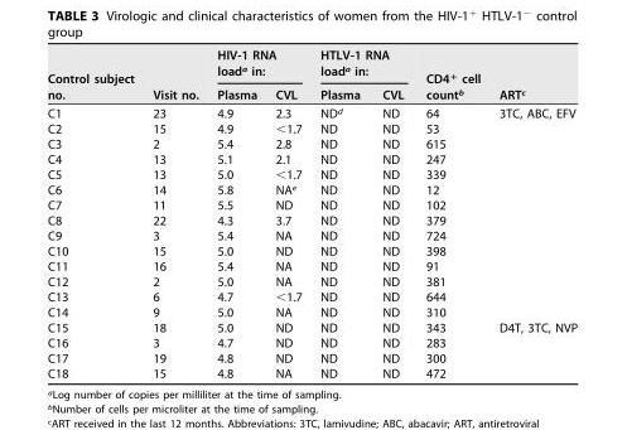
<table><thead><tr><td rowspan="2">Control subject no.</td><td rowspan="2">Visit no.</td><td colspan="2">HIV-1 RNA load<sup>a</sup> in:</td><td colspan="2">HTLV-1 RNA load<sup>a</sup> in:</td><td rowspan="2">CD4<sup>+</sup> cell count<sup>b</sup></td><td rowspan="2">ART<sup>c</sup></td></tr><tr><td>Plasma</td><td>CVL</td><td>Plasma</td><td>CVL</td></tr></thead><tbody><tr><td>C1</td><td>23</td><td>4.9</td><td>2.3</td><td>ND<sup>d</sup></td><td>ND</td><td>64</td><td>3TC, ABC, EFV</td></tr><tr><td>C2</td><td>15</td><td>4.9</td><td>&lt;1.7</td><td>ND</td><td>ND</td><td>53</td><td></td></tr><tr><td>C3</td><td>2</td><td>5.4</td><td>2.8</td><td>ND</td><td>ND</td><td>615</td><td></td></tr><tr><td>C4</td><td>13</td><td>5.1</td><td>2.1</td><td>ND</td><td>ND</td><td>247</td><td></td></tr><tr><td>C5</td><td>13</td><td>5.0</td><td>&lt;1.7</td><td>ND</td><td>ND</td><td>339</td><td></td></tr><tr><td>C6</td><td>14</td><td>5.8</td><td>NA<sup>e</sup></td><td>ND</td><td>ND</td><td>12</td><td></td></tr><tr><td>C7</td><td>11</td><td>5.5</td><td>ND</td><td>ND</td><td>ND</td><td>102</td><td></td></tr><tr><td>C8</td><td>22</td><td>4.3</td><td>3.7</td><td>ND</td><td>ND</td><td>379</td><td></td></tr><tr><td>C9</td><td>3</td><td>5.4</td><td>NA</td><td>ND</td><td>ND</td><td>724</td><td></td></tr><tr><td>C10</td><td>15</td><td>5.0</td><td>ND</td><td>ND</td><td>ND</td><td>398</td><td></td></tr><tr><td>C11</td><td>16</td><td>5.4</td><td>NA</td><td>ND</td><td>ND</td><td>91</td><td></td></tr><tr><td>C12</td><td>2</td><td>5.0</td><td>NA</td><td>ND</td><td>ND</td><td>381</td><td></td></tr><tr><td>C13</td><td>6</td><td>4.7</td><td>&lt;1.7</td><td>ND</td><td>ND</td><td>644</td><td></td></tr><tr><td>C14</td><td>9</td><td>5.0</td><td>NA</td><td>ND</td><td>ND</td><td>310</td><td></td></tr><tr><td>C15</td><td>18</td><td>5.0</td><td>ND</td><td>ND</td><td>ND</td><td>343</td><td>D4T, 3TC, NVP</td></tr><tr><td>C16</td><td>3</td><td>4.7</td><td>ND</td><td>ND</td><td>ND</td><td>283</td><td></td></tr><tr><td>C17</td><td>19</td><td>4.8</td><td>ND</td><td>ND</td><td>ND</td><td>300</td><td></td></tr><tr><td>C18</td><td>15</td><td>4.8</td><td>NA</td><td>ND</td><td>ND</td><td>472</td><td></td></tr></tbody></table>